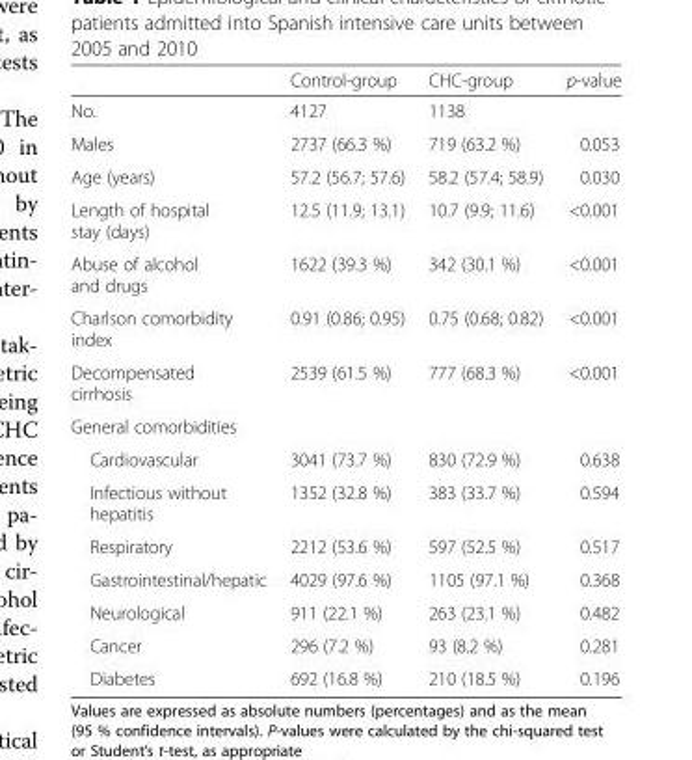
<table><thead><tr><td></td><td>Control-group</td><td>CHC-group</td><td>p-value</td></tr></thead><tbody><tr><td>No.</td><td>4127</td><td>1138</td><td></td></tr><tr><td>Males</td><td>2737 (66.3 %)</td><td>719 (63.2 %)</td><td>0.053</td></tr><tr><td>Age (years)</td><td>57.2 (56.7; 57.6)</td><td>58.2 (57.4; 58.9)</td><td>0.030</td></tr><tr><td>Length of hospital stay (days)</td><td>12.5 (11.9; 13.1)</td><td>10.7 (9.9; 11.6)</td><td>&lt;0.001</td></tr><tr><td>Abuse of alcohol and drugs</td><td>1622 (39.3 %)</td><td>342 (30.1 %)</td><td>&lt;0.001</td></tr><tr><td>Charlson comorbidity index</td><td>0.91 (0.86; 0.95)</td><td>0.75 (0.68; 0.82)</td><td>&lt;0.001</td></tr><tr><td>Decompensated cirrhosis</td><td>2539 (61.5 %)</td><td>777 (68.3 %)</td><td>&lt;0.001</td></tr><tr><td colspan="4">General comorbidities</td></tr><tr><td>Cardiovascular</td><td>3041 (73.7 %)</td><td>830 (72.9 %)</td><td>0.638</td></tr><tr><td>Infectious without hepatitis</td><td>1352 (32.8 %)</td><td>383 (33.7 %)</td><td>0.594</td></tr><tr><td>Respiratory</td><td>2212 (53.6 %)</td><td>597 (52.5 %)</td><td>0.517</td></tr><tr><td>Gastrointestinal/hepatic</td><td>4029 (97.6 %)</td><td>1105 (97.1 %)</td><td>0.368</td></tr><tr><td>Neurological</td><td>911 (22.1 %)</td><td>263 (23.1 %)</td><td>0.482</td></tr><tr><td>Cancer</td><td>296 (7.2 %)</td><td>93 (8.2 %)</td><td>0.281</td></tr><tr><td>Diabetes</td><td>692 (16.8 %)</td><td>210 (18.5 %)</td><td>0.196</td></tr></tbody></table>